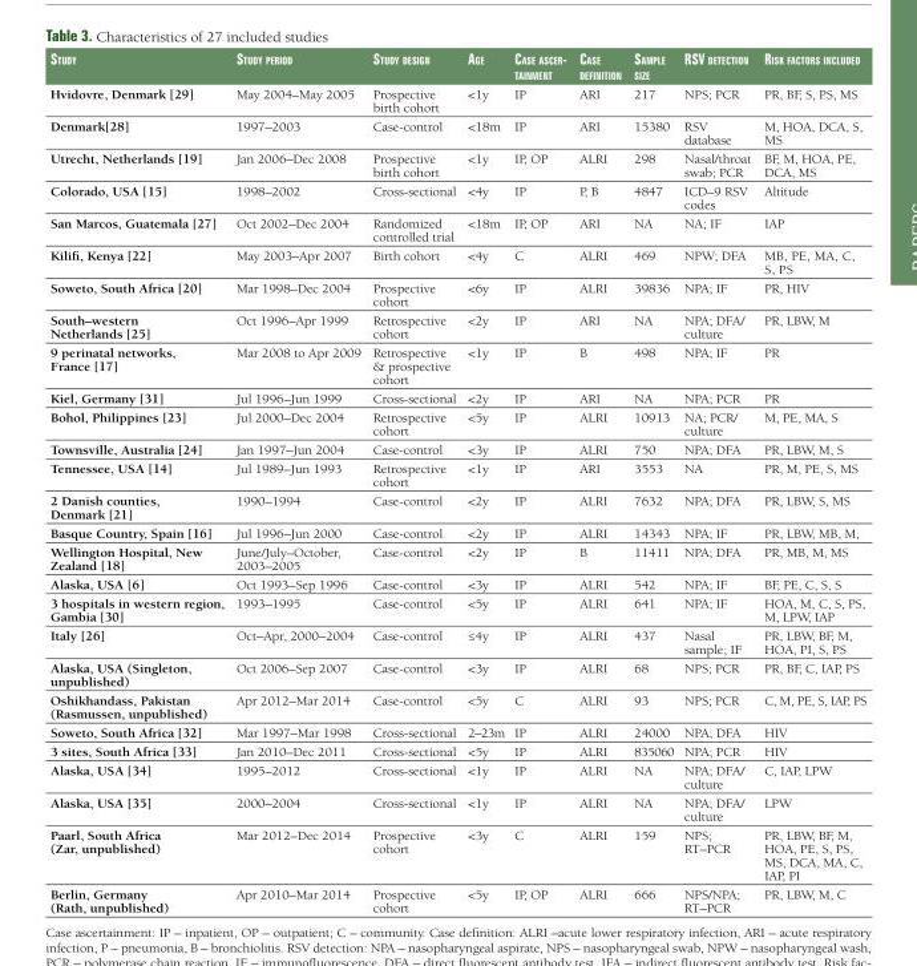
<table><thead><tr><td>stuDy</td><td>stuDy peRioD</td><td>stuDy Design</td><td>age</td><td>case asceR- tainment</td><td>case Definition</td><td>sample size</td><td>RsV Detection</td><td>Risk factoRs incluDeD</td></tr></thead><tbody><tr><td>Hvidovre, Denmark [29]</td><td>May 2004–May 2005</td><td>Prospective birth cohort</td><td>&lt;1y</td><td>IP</td><td>ARI</td><td>217</td><td>NPS; PCR</td><td>PR, BF, S, PS, MS</td></tr><tr><td>Denmark[28]</td><td>1997–2003</td><td>Case-control</td><td>&lt;18m</td><td>IP</td><td>ARI</td><td>15380</td><td>RSV database</td><td>M, HOA, DCA, S, MS</td></tr><tr><td>Utrecht, Netherlands [19]</td><td>Jan 2006–Dec 2008</td><td>Prospective birth cohort</td><td>&lt;1y</td><td>IP, OP</td><td>ALRI</td><td>298</td><td>Nasal/throat swab; PCR</td><td>BF, M, HOA, PE, DCA, MS</td></tr><tr><td>Colorado, USA [15]</td><td>1998–2002</td><td>Cross-sectional</td><td>&lt;4y</td><td>IP</td><td>P, B</td><td>4847</td><td>ICD–9 RSV codes</td><td>Altitude</td></tr><tr><td>San Marcos, Guatemala [27]</td><td>Oct 2002–Dec 2004</td><td>Randomized controlled trial</td><td>&lt;18m</td><td>IP, OP</td><td>ARI</td><td>NA</td><td>NA; IF</td><td>IAP</td></tr><tr><td>Kilifi, Kenya [22]</td><td>May 2003–Apr 2007</td><td>Birth cohort</td><td>&lt;4y</td><td>C</td><td>ALRI</td><td>469</td><td>NPW; DFA</td><td>MB, PE, MA, C, S, PS</td></tr><tr><td>Soweto, South Africa [20]</td><td>Mar 1998–Dec 2004</td><td>Prospective cohort</td><td>&lt;6y</td><td>IP</td><td>ALRI</td><td>39836</td><td>NPA; IF</td><td>PR, HIV</td></tr><tr><td>South–western Netherlands [25]</td><td>Oct 1996–Apr 1999</td><td>Retrospective cohort</td><td>&lt;2y</td><td>IP</td><td>ARI</td><td>NA</td><td>NPA; DFA/ culture</td><td>PR, LBW, M</td></tr><tr><td>9 perinatal networks, France [17]</td><td>Mar 2008 to Apr 2009</td><td>Retrospective &amp; prospective cohort</td><td>&lt;1y</td><td>IP</td><td>B</td><td>498</td><td>NPA; IF</td><td>PR</td></tr><tr><td>Kiel, Germany [31]</td><td>Jul 1996–Jun 1999</td><td>Cross-sectional</td><td>&lt;2y</td><td>IP</td><td>ARI</td><td>NA</td><td>NPA; PCR</td><td>PR</td></tr><tr><td>Bohol, Philippines [23]</td><td>Jul 2000–Dec 2004</td><td>Retrospective cohort</td><td>&lt;5y</td><td>IP</td><td>ALRI</td><td>10913</td><td>NA; PCR/ culture</td><td>M, PE, MA, S</td></tr><tr><td>Townsville, Australia [24]</td><td>Jan 1997–Jun 2004</td><td>Case-control</td><td>&lt;3y</td><td>IP</td><td>ALRI</td><td>750</td><td>NPA; DFA</td><td>PR, LBW, M, S</td></tr><tr><td>Tennessee, USA [14]</td><td>Jul 1989–Jun 1993</td><td>Retrospective cohort</td><td>&lt;1y</td><td>IP</td><td>ARI</td><td>3553</td><td>NA</td><td>PR, M, PE, S, MS</td></tr><tr><td>2 Danish counties, Denmark [21]</td><td>1990–1994</td><td>Case-control</td><td>&lt;2y</td><td>IP</td><td>ALRI</td><td>7632</td><td>NPA; DFA</td><td>PR, LBW, S, MS</td></tr><tr><td>Basque Country, Spain [16]</td><td>Jul 1996–Jun 2000</td><td>Case-control</td><td>&lt;2y</td><td>IP</td><td>ALRI</td><td>14343</td><td>NPA; IF</td><td>PR, LBW, MB, M,</td></tr><tr><td>Wellington Hospital, New Zealand [18]</td><td>June/July–October, 2003–2005</td><td>Case-control</td><td>&lt;2y</td><td>IP</td><td>B</td><td>11411</td><td>NPA; DFA</td><td>PR, MB, M, MS</td></tr><tr><td>Alaska, USA [6]</td><td>Oct 1993–Sep 1996</td><td>Case-control</td><td>&lt;3y</td><td>IP</td><td>ALRI</td><td>542</td><td>NPA; IF</td><td>BF, PE, C, S, S</td></tr><tr><td>3 hospitals in western region, Gambia [30]</td><td>1993–1995</td><td>Case-control</td><td>&lt;5y</td><td>IP</td><td>ALRI</td><td>641</td><td>NPA; IF</td><td>HOA, M, C, S, PS, M, LPW, IAP</td></tr><tr><td>Italy [26]</td><td>Oct–Apr, 2000–2004</td><td>Case-control</td><td>≤4y</td><td>IP</td><td>ALRI</td><td>437</td><td>Nasal sample; IF</td><td>PR, LBW, BF, M, HOA, PI, S, PS</td></tr><tr><td>Alaska, USA (Singleton, unpublished)</td><td>Oct 2006–Sep 2007</td><td>Case-control</td><td>&lt;3y</td><td>IP</td><td>ALRI</td><td>68</td><td>NPS; PCR</td><td>PR, BF, C, IAP, PS</td></tr><tr><td>Oshikhandass, Pakistan (Rasmussen, unpublished)</td><td>Apr 2012–Mar 2014</td><td>Case-control</td><td>&lt;5y</td><td>C</td><td>ALRI</td><td>93</td><td>NPS; PCR</td><td>C, M, PE, S, IAP, PS</td></tr><tr><td>Soweto, South Africa [32]</td><td>Mar 1997–Mar 1998</td><td>Cross-sectional</td><td>2–23m</td><td>IP</td><td>ALRI</td><td>24000</td><td>NPA; DFA</td><td>HIV</td></tr><tr><td>3 sites, South Africa [33]</td><td>Jan 2010–Dec 2011</td><td>Cross-sectional</td><td>&lt;5y</td><td>IP</td><td>ALRI</td><td>835060</td><td>NPA; PCR</td><td>HIV</td></tr><tr><td>Alaska, USA [34]</td><td>1995–2012</td><td>Cross-sectional</td><td>&lt;1y</td><td>IP</td><td>ALRI</td><td>NA</td><td>NPA; DFA/ culture</td><td>C, IAP, LPW</td></tr><tr><td>Alaska, USA [35]</td><td>2000–2004</td><td>Cross-sectional</td><td>&lt;1y</td><td>IP</td><td>ALRI</td><td>NA</td><td>NPA; DFA/ culture</td><td>LPW</td></tr><tr><td>Paarl, South Africa (Zar, unpublished)</td><td>Mar 2012–Dec 2014</td><td>Prospective cohort</td><td>&lt;3y</td><td>C</td><td>ALRI</td><td>159</td><td>NPS; RT–PCR</td><td>PR, LBW, BF, M, HOA, PE, S, PS, MS, DCA, MA, C, IAP, PI</td></tr><tr><td>Berlin, Germany (Rath, unpublished)</td><td>Apr 2010–Mar 2014</td><td>Prospective cohort</td><td>&lt;5y</td><td>IP, OP</td><td>ALRI</td><td>666</td><td>NPS/NPA; RT–PCR</td><td>PR, LBW, M, C</td></tr></tbody></table>